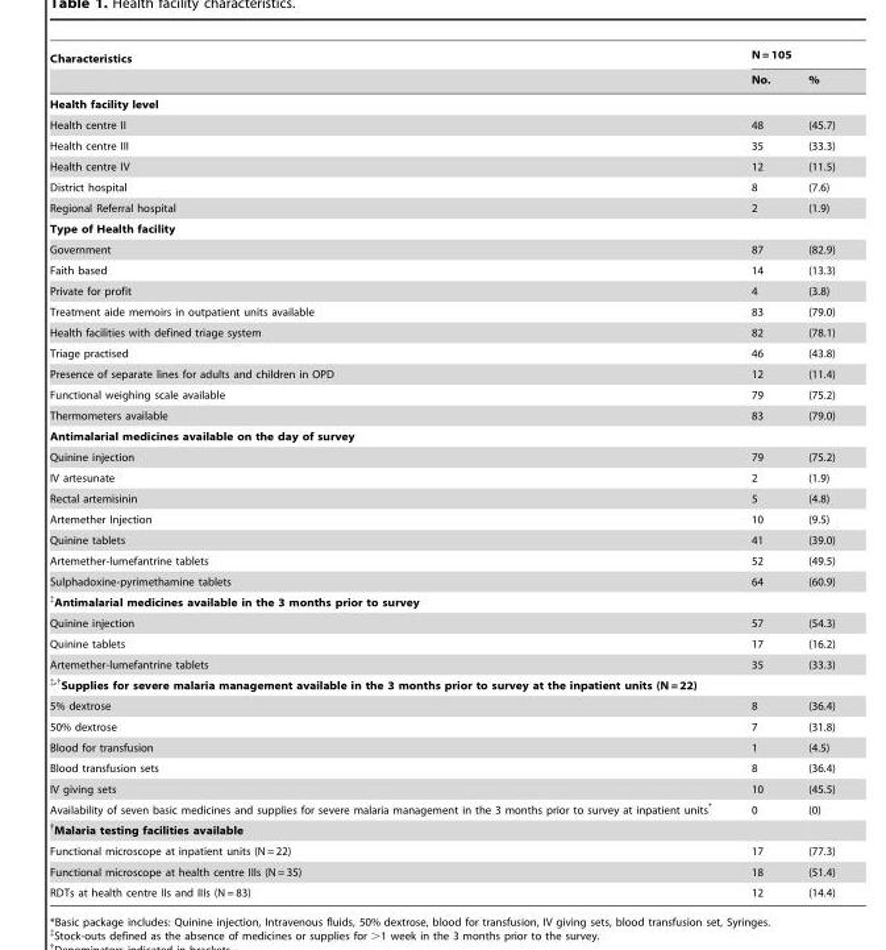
<table><thead><tr><td rowspan="2">Characteristics</td><td colspan="2">N = 105</td></tr><tr><td>No.</td><td>%</td></tr></thead><tbody><tr><td colspan="3">Health facility level</td></tr><tr><td>Health centre II</td><td>48</td><td>(45.7)</td></tr><tr><td>Health centre III</td><td>35</td><td>(33.3)</td></tr><tr><td>Health centre IV</td><td>12</td><td>(11.5)</td></tr><tr><td>District hospital</td><td>8</td><td>(7.6)</td></tr><tr><td>Regional Referral hospital</td><td>2</td><td>(1.9)</td></tr><tr><td colspan="3">Type of Health facility</td></tr><tr><td>Government</td><td>87</td><td>(82.9)</td></tr><tr><td>Faith based</td><td>14</td><td>(13.3)</td></tr><tr><td>Private for profit</td><td>4</td><td>(3.8)</td></tr><tr><td>Treatment aide memoirs in outpatient units available</td><td>83</td><td>(79.0)</td></tr><tr><td>Health facilities with defined triage system</td><td>82</td><td>(78.1)</td></tr><tr><td>Triage practised</td><td>46</td><td>(43.8)</td></tr><tr><td>Presence of separate lines for adults and children in OPD</td><td>12</td><td>(11.4)</td></tr><tr><td>Functional weighing scale available</td><td>79</td><td>(75.2)</td></tr><tr><td>Thermometers available</td><td>83</td><td>(79.0)</td></tr><tr><td colspan="3">Antimalarial medicines available on the day of survey</td></tr><tr><td>Quinine injection</td><td>79</td><td>(75.2)</td></tr><tr><td>IV artesunate</td><td>2</td><td>(1.9)</td></tr><tr><td>Rectal artemisinin</td><td>5</td><td>(4.8)</td></tr><tr><td>Artemether Injection</td><td>10</td><td>(9.5)</td></tr><tr><td>Quinine tablets</td><td>41</td><td>(39.0)</td></tr><tr><td>Artemether-lumefantrine tablets</td><td>52</td><td>(49.5)</td></tr><tr><td>Sulphadoxine-pyrimethamine tablets</td><td>64</td><td>(60.9)</td></tr><tr><td colspan="3">‡Antimalarial medicines available in the 3 months prior to survey</td></tr><tr><td>Quinine injection</td><td>57</td><td>(54.3)</td></tr><tr><td>Quinine tablets</td><td>17</td><td>(16.2)</td></tr><tr><td>Artemether-lumefantrine tablets</td><td>35</td><td>(33.3)</td></tr><tr><td colspan="3">‡,†Supplies for severe malaria management available in the 3 months prior to survey at the inpatient units (N = 22)</td></tr><tr><td>5% dextrose</td><td>8</td><td>(36.4)</td></tr><tr><td>50% dextrose</td><td>7</td><td>(31.8)</td></tr><tr><td>Blood for transfusion</td><td>1</td><td>(4.5)</td></tr><tr><td>Blood transfusion sets</td><td>8</td><td>(36.4)</td></tr><tr><td>IV giving sets</td><td>10</td><td>(45.5)</td></tr><tr><td>Availability of seven basic medicines and supplies for severe malaria management in the 3 months prior to survey at inpatient units*</td><td>0</td><td>(0)</td></tr><tr><td colspan="3">†Malaria testing facilities available</td></tr><tr><td>Functional microscope at inpatient units (N = 22)</td><td>17</td><td>(77.3)</td></tr><tr><td>Functional microscope at health centre IIIs (N = 35)</td><td>18</td><td>(51.4)</td></tr><tr><td>RDTs at health centre IIs and IIIs (N = 83)</td><td>12</td><td>(14.4)</td></tr></tbody></table>